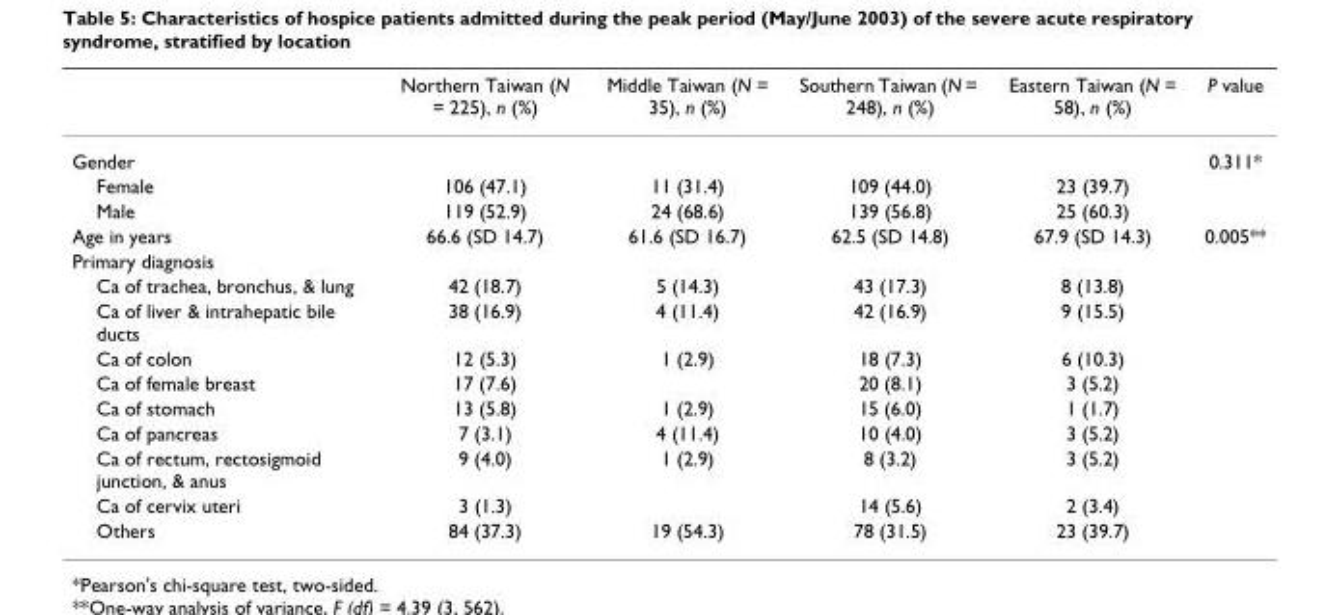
<table><thead><tr><td></td><td>Northern Taiwan (N = 225), n (%)</td><td>Middle Taiwan (N = 35), n (%)</td><td>Southern Taiwan (N = 248), n (%)</td><td>Eastern Taiwan (N = 58), n (%)</td><td>P value</td></tr></thead><tbody><tr><td>Gender</td><td></td><td></td><td></td><td></td><td>0.311*</td></tr><tr><td>Female</td><td>106 (47.1)</td><td>11 (31.4)</td><td>109 (44.0)</td><td>23 (39.7)</td><td></td></tr><tr><td>Male</td><td>119 (52.9)</td><td>24 (68.6)</td><td>139 (56.8)</td><td>25 (60.3)</td><td></td></tr><tr><td>Age in years</td><td>66.6 (SD 14.7)</td><td>61.6 (SD 16.7)</td><td>62.5 (SD 14.8)</td><td>67.9 (SD 14.3)</td><td>0.005**</td></tr><tr><td colspan="6">Primary diagnosis</td></tr><tr><td>Ca of trachea, bronchus, &amp; lung</td><td>42 (18.7)</td><td>5 (14.3)</td><td>43 (17.3)</td><td>8 (13.8)</td><td></td></tr><tr><td>Ca of liver &amp; intrahepatic bile ducts</td><td>38 (16.9)</td><td>4 (11.4)</td><td>42 (16.9)</td><td>9 (15.5)</td><td></td></tr><tr><td>Ca of colon</td><td>12 (5.3)</td><td>1 (2.9)</td><td>18 (7.3)</td><td>6 (10.3)</td><td></td></tr><tr><td>Ca of female breast</td><td>17 (7.6)</td><td></td><td>20 (8.1)</td><td>3 (5.2)</td><td></td></tr><tr><td>Ca of stomach</td><td>13 (5.8)</td><td>1 (2.9)</td><td>15 (6.0)</td><td>1 (1.7)</td><td></td></tr><tr><td>Ca of pancreas</td><td>7 (3.1)</td><td>4 (11.4)</td><td>10 (4.0)</td><td>3 (5.2)</td><td></td></tr><tr><td>Ca of rectum, rectosigmoid junction, &amp; anus</td><td>9 (4.0)</td><td>1 (2.9)</td><td>8 (3.2)</td><td>3 (5.2)</td><td></td></tr><tr><td>Ca of cervix uteri</td><td>3 (1.3)</td><td></td><td>14 (5.6)</td><td>2 (3.4)</td><td></td></tr><tr><td>Others</td><td>84 (37.3)</td><td>19 (54.3)</td><td>78 (31.5)</td><td>23 (39.7)</td><td></td></tr></tbody></table>